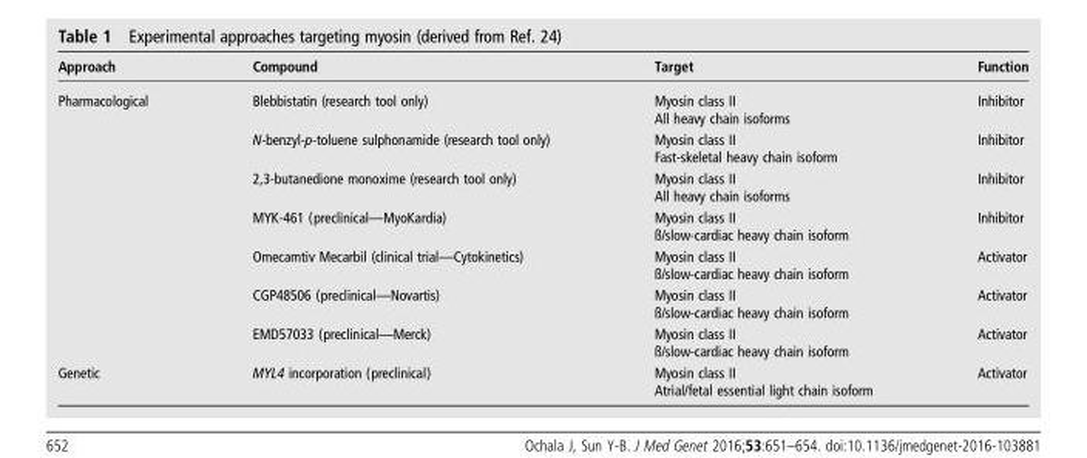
<table><thead><tr><td>Approach</td><td>Compound</td><td>Target</td><td>Function</td></tr></thead><tbody><tr><td rowspan="7">Pharmacological</td><td>Blebbistatin (research tool only)</td><td>Myosin class II All heavy chain isoforms</td><td>Inhibitor</td></tr><tr><td>N-benzyl-p-toluene sulphonamide (research tool only)</td><td>Myosin class II Fast-skeletal heavy chain isoform</td><td>Inhibitor</td></tr><tr><td>2,3-butanedione monoxime (research tool only)</td><td>Myosin class II All heavy chain isoforms</td><td>Inhibitor</td></tr><tr><td>MYK-461 (preclinical—MyoKardia)</td><td>Myosin class II ß/slow-cardiac heavy chain isoform</td><td>Inhibitor</td></tr><tr><td>Omecamtiv Mecarbil (clinical trial—Cytokinetics)</td><td>Myosin class II ß/slow-cardiac heavy chain isoform</td><td>Activator</td></tr><tr><td>CGP48506 (preclinical—Novartis)</td><td>Myosin class II ß/slow-cardiac heavy chain isoform</td><td>Activator</td></tr><tr><td>EMD57033 (preclinical—Merck)</td><td>Myosin class II ß/slow-cardiac heavy chain isoform</td><td>Activator</td></tr><tr><td>Genetic</td><td>MYL4 incorporation (preclinical)</td><td>Myosin class II Atrial/fetal essential light chain isoform</td><td>Activator</td></tr></tbody></table>